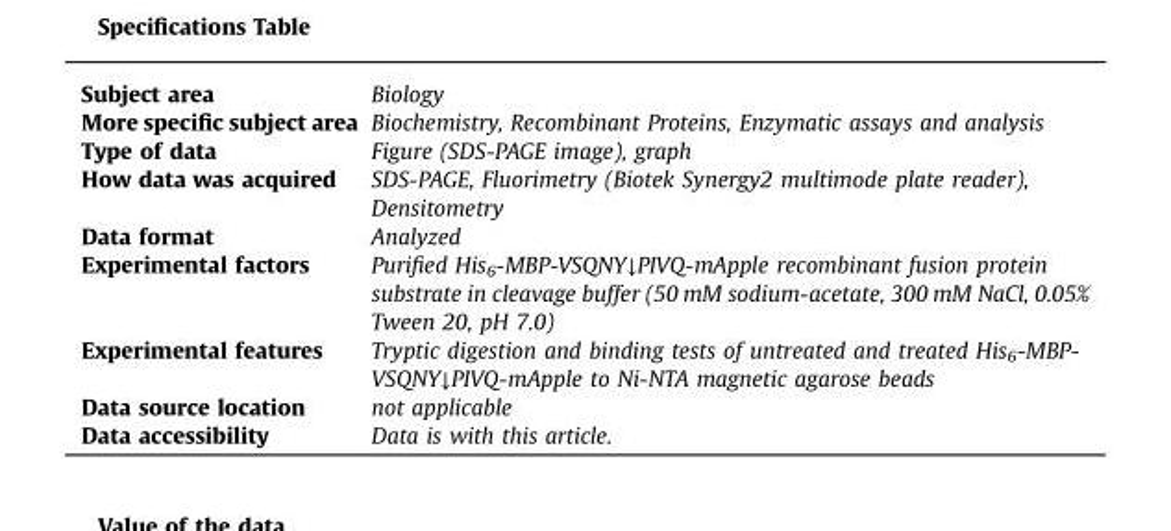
<table><tbody><tr><td>Subject area</td><td>Biology</td></tr><tr><td>More specific subject area</td><td>Biochemistry, Recombinant Proteins, Enzymatic assays and analysis</td></tr><tr><td>Type of data</td><td>Figure (SDS-PAGE image), graph</td></tr><tr><td>How data was acquired</td><td>SDS-PAGE, Fluorimetry (Biotek Synergy2 multimode plate reader), Densitometry</td></tr><tr><td>Data format</td><td>Analyzed</td></tr><tr><td>Experimental factors</td><td>Purified His<sub>6</sub>-MBP-VSQNY↓PIVQ-mApple recombinant fusion protein substrate in cleavage buffer (50 mM sodium-acetate, 300 mM NaCl, 0.05% Tween 20, pH 7.0)</td></tr><tr><td>Experimental features</td><td>Tryptic digestion and binding tests of untreated and treated His<sub>6</sub>-MBP- VSQNY↓PIVQ-mApple to Ni-NTA magnetic agarose beads</td></tr><tr><td>Data source location</td><td>not applicable</td></tr><tr><td>Data accessibility</td><td>Data is with this article.</td></tr></tbody></table>